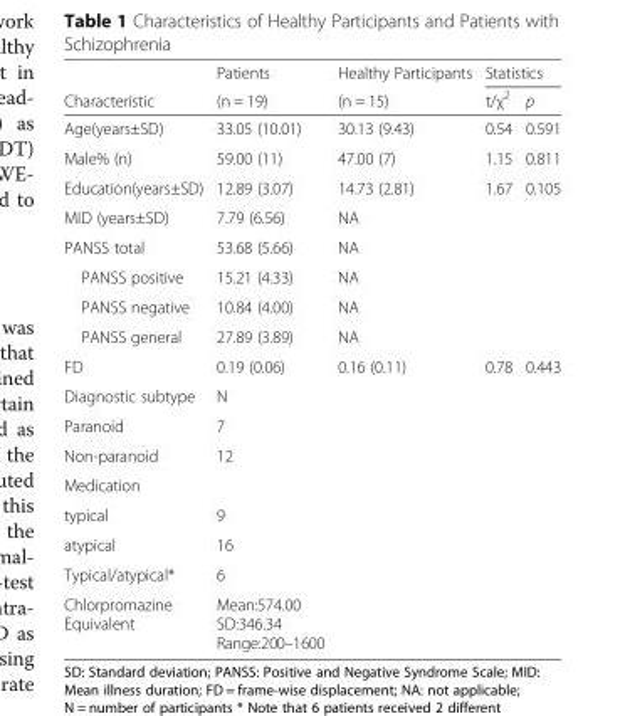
<table><thead><tr><td rowspan="2">Characteristic</td><td rowspan="2">Patients (n = 19)</td><td rowspan="2">Healthy Participants (n = 15)</td><td colspan="2">Statistics</td></tr><tr><td>t/χ<sup>2</sup></td><td>p</td></tr></thead><tbody><tr><td>Age(years±SD)</td><td>33.05 (10.01)</td><td>30.13 (9.43)</td><td>0.54</td><td>0.591</td></tr><tr><td>Male% (n)</td><td>59.00 (11)</td><td>47.00 (7)</td><td>1.15</td><td>0.811</td></tr><tr><td>Education(years±SD)</td><td>12.89 (3.07)</td><td>14.73 (2.81)</td><td>1.67</td><td>0.105</td></tr><tr><td>MID (years±SD)</td><td>7.79 (6.56)</td><td>NA</td><td colspan="2"></td></tr><tr><td>PANSS total</td><td>53.68 (5.66)</td><td>NA</td><td colspan="2"></td></tr><tr><td>PANSS positive</td><td>15.21 (4.33)</td><td>NA</td><td colspan="2"></td></tr><tr><td>PANSS negative</td><td>10.84 (4.00)</td><td>NA</td><td colspan="2"></td></tr><tr><td>PANSS general</td><td>27.89 (3.89)</td><td>NA</td><td colspan="2"></td></tr><tr><td>FD</td><td>0.19 (0.06)</td><td>0.16 (0.11)</td><td>0.78</td><td>0.443</td></tr><tr><td>Diagnostic subtype</td><td>N</td><td></td><td colspan="2"></td></tr><tr><td>Paranoid</td><td>7</td><td></td><td colspan="2"></td></tr><tr><td>Non-paranoid</td><td>12</td><td></td><td colspan="2"></td></tr><tr><td colspan="5">Medication</td></tr><tr><td>typical</td><td>9</td><td></td><td colspan="2"></td></tr><tr><td>atypical</td><td>16</td><td></td><td colspan="2"></td></tr><tr><td>Typical/atypical*</td><td>6</td><td></td><td colspan="2"></td></tr><tr><td>Chlorpromazine Equivalent</td><td>Mean:574.00 SD:346.34 Range:200–1600</td><td></td><td colspan="2"></td></tr></tbody></table>